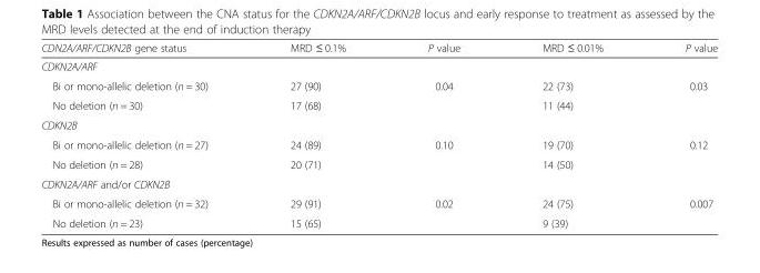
<table><thead><tr><td>CDN2A/ARF/CDKN2B gene status</td><td>MRD ≤ 0.1%</td><td>P value</td><td>MRD ≤ 0.01%</td><td>P value</td></tr></thead><tbody><tr><td colspan="5">CDKN2A/ARF</td></tr><tr><td>Bi or mono-allelic deletion (n = 30)</td><td>27 (90)</td><td rowspan="2">0.04</td><td>22 (73)</td><td rowspan="2">0.03</td></tr><tr><td>No deletion (n = 30)</td><td>17 (68)</td><td>11 (44)</td></tr><tr><td colspan="5">CDKN2B</td></tr><tr><td>Bi or mono-allelic deletion (n = 27)</td><td>24 (89)</td><td rowspan="2">0.10</td><td>19 (70)</td><td rowspan="2">0.12</td></tr><tr><td>No deletion (n = 28)</td><td>20 (71)</td><td>14 (50)</td></tr><tr><td colspan="5">CDKN2A/ARF and/or CDKN2B</td></tr><tr><td>Bi or mono-allelic deletion (n = 32)</td><td>29 (91)</td><td rowspan="2">0.02</td><td>24 (75)</td><td rowspan="2">0.007</td></tr><tr><td>No deletion (n = 23)</td><td>15 (65)</td><td>9 (39)</td></tr></tbody></table>